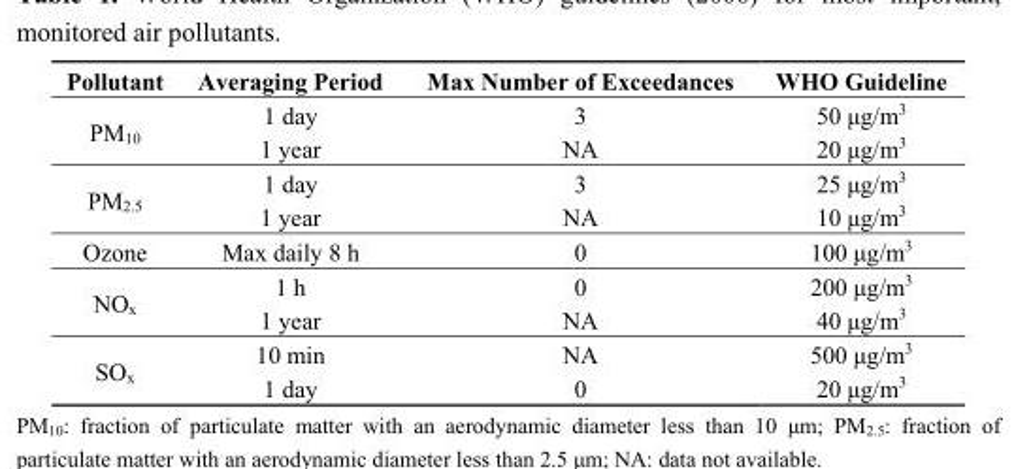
<table><thead><tr><td>Pollutant</td><td>Averaging Period</td><td>Max Number of Exceedances</td><td>WHO Guideline</td></tr></thead><tbody><tr><td rowspan="2">PM<sub>10</sub></td><td>1 day</td><td>3</td><td>50 μg/m<sup>3</sup></td></tr><tr><td>1 year</td><td>NA</td><td>20 μg/m<sup>3</sup></td></tr><tr><td rowspan="2">PM<sub>2.5</sub></td><td>1 day</td><td>3</td><td>25 μg/m<sup>3</sup></td></tr><tr><td>1 year</td><td>NA</td><td>10 μg/m<sup>3</sup></td></tr><tr><td>Ozone</td><td>Max daily 8 h</td><td>0</td><td>100 μg/m<sup>3</sup></td></tr><tr><td rowspan="2">NO<sub>x</sub></td><td>1 h</td><td>0</td><td>200 μg/m<sup>3</sup></td></tr><tr><td>1 year</td><td>NA</td><td>40 μg/m<sup>3</sup></td></tr><tr><td rowspan="2">SO<sub>x</sub></td><td>10 min</td><td>NA</td><td>500 μg/m<sup>3</sup></td></tr><tr><td>1 day</td><td>0</td><td>20 μg/m<sup>3</sup></td></tr></tbody></table>